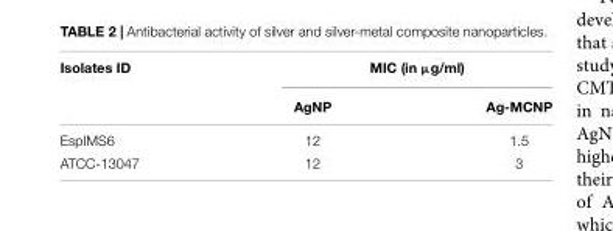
<table><thead><tr><td rowspan="2">Isolates ID</td><td colspan="2">MIC (in µg/ml)</td></tr><tr><td>AgNP</td><td>Ag-MCNP</td></tr></thead><tbody><tr><td>EspIMS6</td><td>12</td><td>1.5</td></tr><tr><td>ATCC-13047</td><td>12</td><td>3</td></tr></tbody></table>